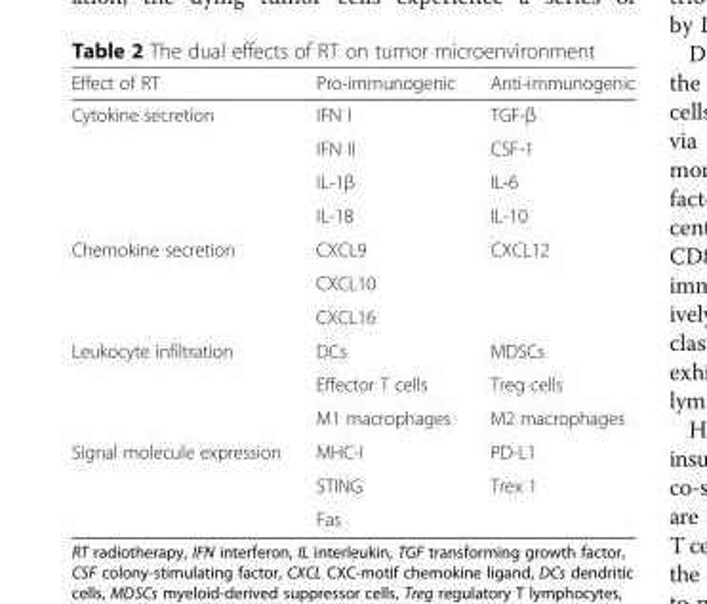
<table><thead><tr><td>Effect of RT</td><td>Pro-immunogenic</td><td>Anti-immunogenic</td></tr></thead><tbody><tr><td rowspan="4">Cytokine secretion</td><td>IFN I</td><td>TGF-β</td></tr><tr><td>IFN II</td><td>CSF-1</td></tr><tr><td>IL-1β</td><td>IL-6</td></tr><tr><td>IL-18</td><td>IL-10</td></tr><tr><td rowspan="3">Chemokine secretion</td><td>CXCL9</td><td>CXCL12</td></tr><tr><td>CXCL10</td><td></td></tr><tr><td>CXCL16</td><td></td></tr><tr><td rowspan="3">Leukocyte infiltration</td><td>DCs</td><td>MDSCs</td></tr><tr><td>Effector T cells</td><td>Treg cells</td></tr><tr><td>M1 macrophages</td><td>M2 macrophages</td></tr><tr><td rowspan="3">Signal molecule expression</td><td>MHC-I</td><td>PD-L1</td></tr><tr><td>STING</td><td>Trex 1</td></tr><tr><td>Fas</td><td></td></tr></tbody></table>